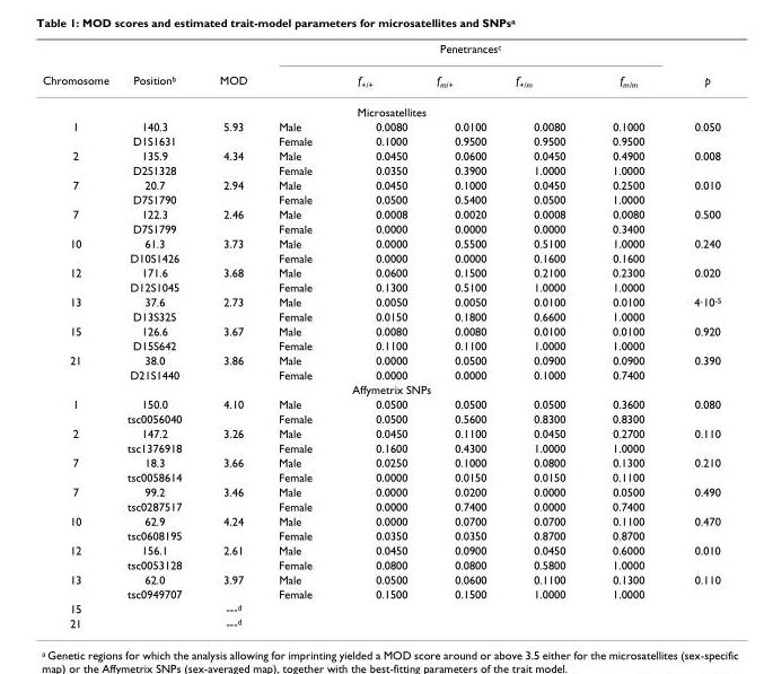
<table><thead><tr><td rowspan="2">Chromosome</td><td rowspan="2">Positionb</td><td rowspan="2">MOD</td><td colspan="5">Penetrancesc</td><td rowspan="2">p</td></tr><tr><td></td><td>f+/+</td><td>fm/+</td><td>f+/m</td><td>fm/m</td></tr></thead><tbody><tr><td colspan="9">Microsatellites</td></tr><tr><td rowspan="2">1</td><td>140.3</td><td>5.93</td><td>Male</td><td>0.0080</td><td>0.0100</td><td>0.0080</td><td>0.1000</td><td>0.050</td></tr><tr><td>D1S1631</td><td></td><td>Female</td><td>0.1000</td><td>0.9500</td><td>0.9500</td><td>0.9500</td><td></td></tr><tr><td rowspan="2">2</td><td>135.9</td><td>4.34</td><td>Male</td><td>0.0450</td><td>0.0600</td><td>0.0450</td><td>0.4900</td><td>0.008</td></tr><tr><td>D2S1328</td><td></td><td>Female</td><td>0.0350</td><td>0.3900</td><td>1.0000</td><td>1.0000</td><td></td></tr><tr><td rowspan="2">7</td><td>20.7</td><td>2.94</td><td>Male</td><td>0.0450</td><td>0.1000</td><td>0.0450</td><td>0.2500</td><td>0.010</td></tr><tr><td>D7S1790</td><td></td><td>Female</td><td>0.0500</td><td>0.5400</td><td>0.0500</td><td>1.0000</td><td></td></tr><tr><td rowspan="2">7</td><td>122.3</td><td>2.46</td><td>Male</td><td>0.0008</td><td>0.0020</td><td>0.0008</td><td>0.0080</td><td>0.500</td></tr><tr><td>D7S1799</td><td></td><td>Female</td><td>0.0000</td><td>0.0000</td><td>0.0000</td><td>0.3400</td><td></td></tr><tr><td rowspan="2">10</td><td>61.3</td><td>3.73</td><td>Male</td><td>0.0000</td><td>0.5500</td><td>0.5100</td><td>1.0000</td><td>0.240</td></tr><tr><td>D10S1426</td><td></td><td>Female</td><td>0.0000</td><td>0.0000</td><td>0.1600</td><td>0.1600</td><td></td></tr><tr><td rowspan="2">12</td><td>171.6</td><td>3.68</td><td>Male</td><td>0.0600</td><td>0.1500</td><td>0.2100</td><td>0.2300</td><td>0.020</td></tr><tr><td>D12S1045</td><td></td><td>Female</td><td>0.1300</td><td>0.5100</td><td>1.0000</td><td>1.0000</td><td></td></tr><tr><td rowspan="2">13</td><td>37.6</td><td>2.73</td><td>Male</td><td>0.0050</td><td>0.0050</td><td>0.0100</td><td>0.0100</td><td>4·10-5</td></tr><tr><td>D13S325</td><td></td><td>Female</td><td>0.0150</td><td>0.1800</td><td>0.6600</td><td>1.0000</td><td></td></tr><tr><td rowspan="2">15</td><td>126.6</td><td>3.67</td><td>Male</td><td>0.0080</td><td>0.0080</td><td>0.0100</td><td>0.0100</td><td>0.920</td></tr><tr><td>D15S642</td><td></td><td>Female</td><td>0.1100</td><td>0.1100</td><td>1.0000</td><td>1.0000</td><td></td></tr><tr><td rowspan="2">21</td><td>38.0</td><td>3.86</td><td>Male</td><td>0.0000</td><td>0.0500</td><td>0.0900</td><td>0.0900</td><td>0.390</td></tr><tr><td>D21S1440</td><td></td><td>Female</td><td>0.0000</td><td>0.0000</td><td>0.1000</td><td>0.7400</td><td></td></tr><tr><td colspan="9">Affymetrix SNPs</td></tr><tr><td rowspan="2">1</td><td>150.0</td><td>4.10</td><td>Male</td><td>0.0500</td><td>0.0500</td><td>0.0500</td><td>0.3600</td><td>0.080</td></tr><tr><td>tsc0056040</td><td></td><td>Female</td><td>0.0500</td><td>0.5600</td><td>0.8300</td><td>0.8300</td><td></td></tr><tr><td rowspan="2">2</td><td>147.2</td><td>3.26</td><td>Male</td><td>0.0450</td><td>0.1100</td><td>0.0450</td><td>0.2700</td><td>0.110</td></tr><tr><td>tsc1376918</td><td></td><td>Female</td><td>0.1600</td><td>0.4300</td><td>1.0000</td><td>1.0000</td><td></td></tr><tr><td rowspan="2">7</td><td>18.3</td><td>3.66</td><td>Male</td><td>0.0250</td><td>0.1000</td><td>0.0800</td><td>0.1300</td><td>0.210</td></tr><tr><td>tsc0058614</td><td></td><td>Female</td><td>0.0000</td><td>0.0150</td><td>0.0150</td><td>0.1100</td><td></td></tr><tr><td rowspan="2">7</td><td>99.2</td><td>3.46</td><td>Male</td><td>0.0000</td><td>0.0200</td><td>0.0000</td><td>0.0500</td><td>0.490</td></tr><tr><td>tsc0287517</td><td></td><td>Female</td><td>0.0000</td><td>0.7400</td><td>0.0000</td><td>0.7400</td><td></td></tr><tr><td rowspan="2">10</td><td>62.9</td><td>4.24</td><td>Male</td><td>0.0000</td><td>0.0700</td><td>0.0700</td><td>0.1100</td><td>0.470</td></tr><tr><td>tsc0608195</td><td></td><td>Female</td><td>0.0350</td><td>0.0350</td><td>0.8700</td><td>0.8700</td><td></td></tr><tr><td rowspan="2">12</td><td>156.1</td><td>2.61</td><td>Male</td><td>0.0450</td><td>0.0900</td><td>0.0450</td><td>0.6000</td><td>0.010</td></tr><tr><td>tsc0053128</td><td></td><td>Female</td><td>0.0800</td><td>0.0800</td><td>0.5800</td><td>1.0000</td><td></td></tr><tr><td rowspan="2">13</td><td>62.0</td><td>3.97</td><td>Male</td><td>0.0500</td><td>0.0600</td><td>0.1100</td><td>0.1300</td><td>0.110</td></tr><tr><td>tsc0949707</td><td></td><td>Female</td><td>0.1500</td><td>0.1500</td><td>1.0000</td><td>1.0000</td><td></td></tr><tr><td>15</td><td></td><td>---d</td><td></td><td></td><td></td><td></td><td></td><td></td></tr><tr><td>21</td><td></td><td>---d</td><td></td><td></td><td></td><td></td><td></td><td></td></tr></tbody></table>